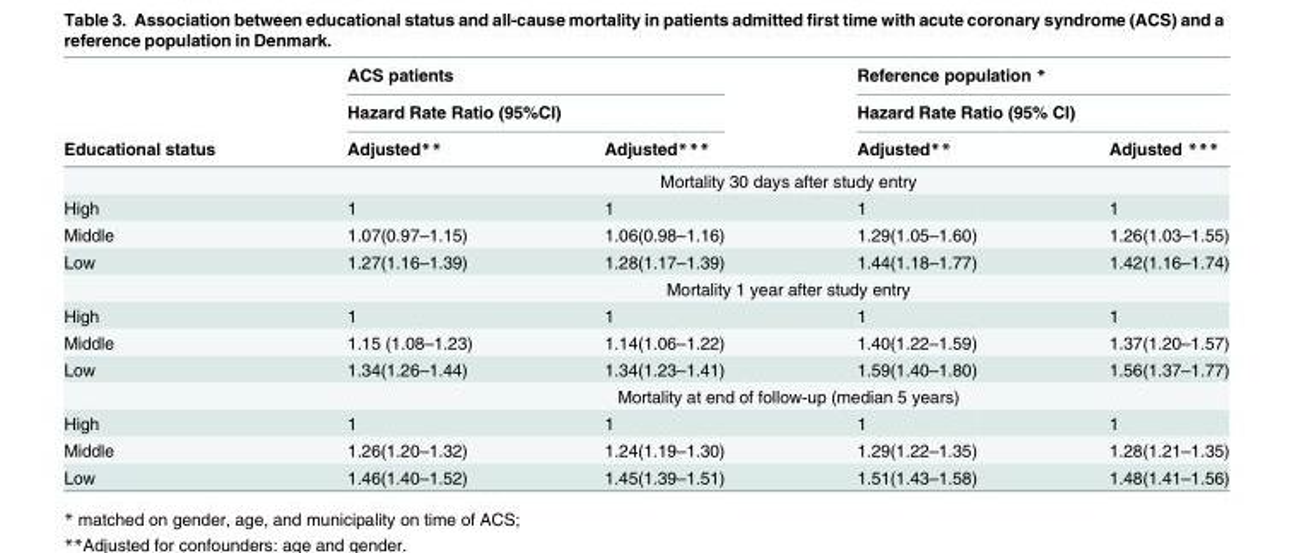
<table><thead><tr><td rowspan="3">Educational status</td><td rowspan="2" colspan="2">ACS patients Hazard Rate Ratio (95%CI)</td><td rowspan="2" colspan="2">Reference population * Hazard Rate Ratio (95% CI)</td></tr><tr></tr><tr><td>Adjusted**</td><td>Adjusted***</td><td>Adjusted**</td><td>Adjusted ***</td></tr></thead><tbody><tr><td></td><td colspan="4">Mortality 30 days after study entry</td></tr><tr><td>High</td><td>1</td><td>1</td><td>1</td><td>1</td></tr><tr><td>Middle</td><td>1.07(0.97–1.15)</td><td>1.06(0.98–1.16)</td><td>1.29(1.05–1.60)</td><td>1.26(1.03–1.55)</td></tr><tr><td rowspan="2">Low</td><td>1.27(1.16–1.39)</td><td>1.28(1.17–1.39)</td><td>1.44(1.18–1.77)</td><td>1.42(1.16–1.74)</td></tr><tr><td colspan="4">Mortality 1 year after study entry</td></tr><tr><td>High</td><td>1</td><td>1</td><td>1</td><td>1</td></tr><tr><td>Middle</td><td>1.15 (1.08–1.23)</td><td>1.14(1.06–1.22)</td><td>1.40(1.22–1.59)</td><td>1.37(1.20–1.57)</td></tr><tr><td rowspan="2">Low</td><td>1.34(1.26–1.44)</td><td>1.34(1.23–1.41)</td><td>1.59(1.40–1.80)</td><td>1.56(1.37–1.77)</td></tr><tr><td colspan="4">Mortality at end of follow-up (median 5 years)</td></tr><tr><td>High</td><td>1</td><td>1</td><td>1</td><td>1</td></tr><tr><td>Middle</td><td>1.26(1.20–1.32)</td><td>1.24(1.19–1.30)</td><td>1.29(1.22–1.35)</td><td>1.28(1.21–1.35)</td></tr><tr><td>Low</td><td>1.46(1.40–1.52)</td><td>1.45(1.39–1.51)</td><td>1.51(1.43–1.58)</td><td>1.48(1.41–1.56)</td></tr></tbody></table>